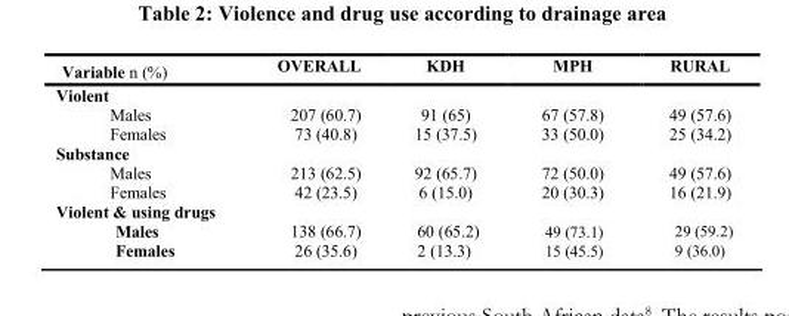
<table><thead><tr><td>Variable n (%)</td><td>OVERALL</td><td>KDH</td><td>MPH</td><td>RURAL</td></tr></thead><tbody><tr><td colspan="5">Violent</td></tr><tr><td>Males</td><td>207 (60.7)</td><td>91 (65)</td><td>67 (57.8)</td><td>49 (57.6)</td></tr><tr><td>Females</td><td>73 (40.8)</td><td>15 (37.5)</td><td>33 (50.0)</td><td>25 (34.2)</td></tr><tr><td colspan="5">Substance</td></tr><tr><td>Males</td><td>213 (62.5)</td><td>92 (65.7)</td><td>72 (50.0)</td><td>49 (57.6)</td></tr><tr><td>Females</td><td>42 (23.5)</td><td>6 (15.0)</td><td>20 (30.3)</td><td>16 (21.9)</td></tr><tr><td colspan="5">Violent &lt; using drugs</td></tr><tr><td>Males</td><td>138 (66.7)</td><td>60 (65.2)</td><td>49 (73.1)</td><td>29 (59.2)</td></tr><tr><td>Females</td><td>26 (35.6)</td><td>2 (13.3)</td><td>15 (45.5)</td><td>9 (36.0)</td></tr></tbody></table>